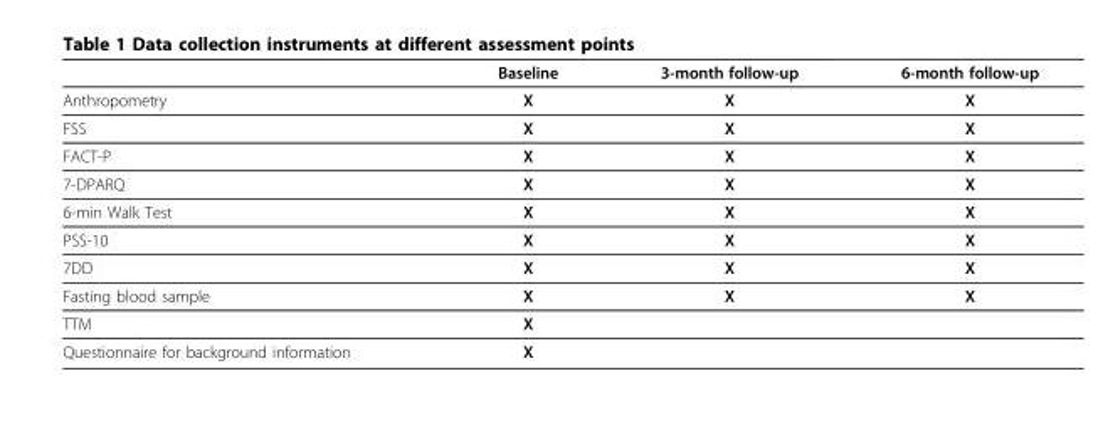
<table><thead><tr><td></td><td>Baseline</td><td>3-month follow-up</td><td>6-month follow-up</td></tr></thead><tbody><tr><td>Anthropometry</td><td>X</td><td>X</td><td>X</td></tr><tr><td>FSS</td><td>X</td><td>X</td><td>X</td></tr><tr><td>FACT-P</td><td>X</td><td>X</td><td>X</td></tr><tr><td>7-DPARQ</td><td>X</td><td>X</td><td>X</td></tr><tr><td>6-min Walk Test</td><td>X</td><td>X</td><td>X</td></tr><tr><td>PSS-10</td><td>X</td><td>X</td><td>X</td></tr><tr><td>7DD</td><td>X</td><td>X</td><td>X</td></tr><tr><td>Fasting blood sample</td><td>X</td><td>X</td><td>X</td></tr><tr><td>TTM</td><td>X</td><td></td><td></td></tr><tr><td>Questionnaire for background information</td><td>X</td><td></td><td></td></tr></tbody></table>